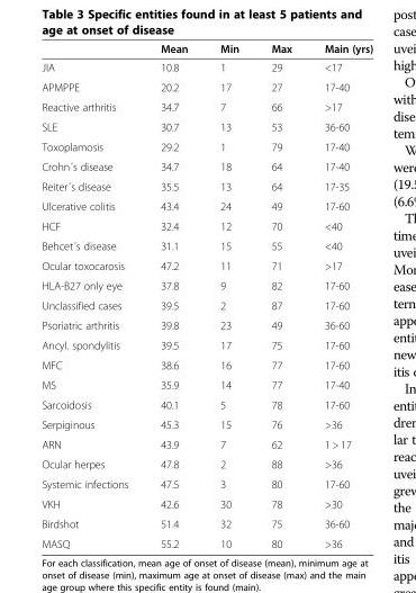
<table><thead><tr><td></td><td>Mean</td><td>Min</td><td>Max</td><td>Main (yrs)</td></tr></thead><tbody><tr><td>JIA</td><td>10.8</td><td>1</td><td>29</td><td>&lt;17</td></tr><tr><td>APMPPE</td><td>20.2</td><td>17</td><td>27</td><td>17-40</td></tr><tr><td>Reactive arthritis</td><td>34.7</td><td>7</td><td>66</td><td>&gt;17</td></tr><tr><td>SLE</td><td>30.7</td><td>13</td><td>53</td><td>36-60</td></tr><tr><td>Toxoplamosis</td><td>29.2</td><td>1</td><td>79</td><td>17-40</td></tr><tr><td>Crohn´s disease</td><td>34.7</td><td>18</td><td>64</td><td>17-40</td></tr><tr><td>Reiter´s disease</td><td>35.5</td><td>13</td><td>64</td><td>17-35</td></tr><tr><td>Ulcerative colitis</td><td>43.4</td><td>24</td><td>49</td><td>17-60</td></tr><tr><td>HCF</td><td>32.4</td><td>12</td><td>70</td><td>&lt;40</td></tr><tr><td>Behcet´s disease</td><td>31.1</td><td>15</td><td>55</td><td>&lt;40</td></tr><tr><td>Ocular toxocarosis</td><td>47.2</td><td>11</td><td>71</td><td>&gt;17</td></tr><tr><td>HLA-B27 only eye</td><td>37.8</td><td>9</td><td>82</td><td>17-60</td></tr><tr><td>Unclassified cases</td><td>39.5</td><td>2</td><td>87</td><td>17-60</td></tr><tr><td>Psoriatric arthritis</td><td>39.8</td><td>23</td><td>49</td><td>36-60</td></tr><tr><td>Ancyl. spondylitis</td><td>39.5</td><td>17</td><td>75</td><td>17-60</td></tr><tr><td>MFC</td><td>38.6</td><td>16</td><td>77</td><td>17-60</td></tr><tr><td>MS</td><td>35.9</td><td>14</td><td>77</td><td>17-40</td></tr><tr><td>Sarcoidosis</td><td>40.1</td><td>5</td><td>78</td><td>17-60</td></tr><tr><td>Serpiginous</td><td>45.3</td><td>15</td><td>76</td><td>&gt;36</td></tr><tr><td>ARN</td><td>43.9</td><td>7</td><td>62</td><td>1 &gt; 17</td></tr><tr><td>Ocular herpes</td><td>47.8</td><td>2</td><td>88</td><td>&gt;36</td></tr><tr><td>Systemic infections</td><td>47.5</td><td>3</td><td>80</td><td>17-60</td></tr><tr><td>VKH</td><td>42.6</td><td>30</td><td>78</td><td>&gt;30</td></tr><tr><td>Birdshot</td><td>51.4</td><td>32</td><td>75</td><td>36-60</td></tr><tr><td>MASQ</td><td>55.2</td><td>10</td><td>80</td><td>&gt;36</td></tr></tbody></table>